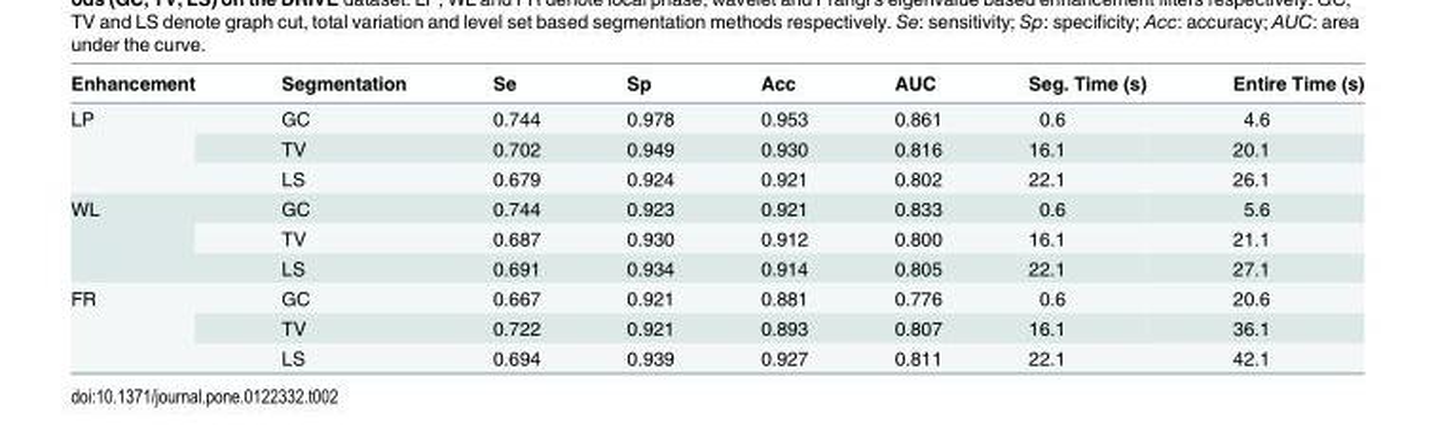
<table><thead><tr><td>Enhancement</td><td>Segmentation</td><td>Se</td><td>Sp</td><td>Acc</td><td>AUC</td><td>Seg. Time (s)</td><td>Entire Time (s)</td></tr></thead><tbody><tr><td rowspan="3">LP</td><td>GC</td><td>0.744</td><td>0.978</td><td>0.953</td><td>0.861</td><td>0.6</td><td>4.6</td></tr><tr><td>TV</td><td>0.702</td><td>0.949</td><td>0.930</td><td>0.816</td><td>16.1</td><td>20.1</td></tr><tr><td>LS</td><td>0.679</td><td>0.924</td><td>0.921</td><td>0.802</td><td>22.1</td><td>26.1</td></tr><tr><td rowspan="3">WL</td><td>GC</td><td>0.744</td><td>0.923</td><td>0.921</td><td>0.833</td><td>0.6</td><td>5.6</td></tr><tr><td>TV</td><td>0.687</td><td>0.930</td><td>0.912</td><td>0.800</td><td>16.1</td><td>21.1</td></tr><tr><td>LS</td><td>0.691</td><td>0.934</td><td>0.914</td><td>0.805</td><td>22.1</td><td>27.1</td></tr><tr><td rowspan="3">FR</td><td>GC</td><td>0.667</td><td>0.921</td><td>0.881</td><td>0.776</td><td>0.6</td><td>20.6</td></tr><tr><td>TV</td><td>0.722</td><td>0.921</td><td>0.893</td><td>0.807</td><td>16.1</td><td>36.1</td></tr><tr><td>LS</td><td>0.694</td><td>0.939</td><td>0.927</td><td>0.811</td><td>22.1</td><td>42.1</td></tr></tbody></table>